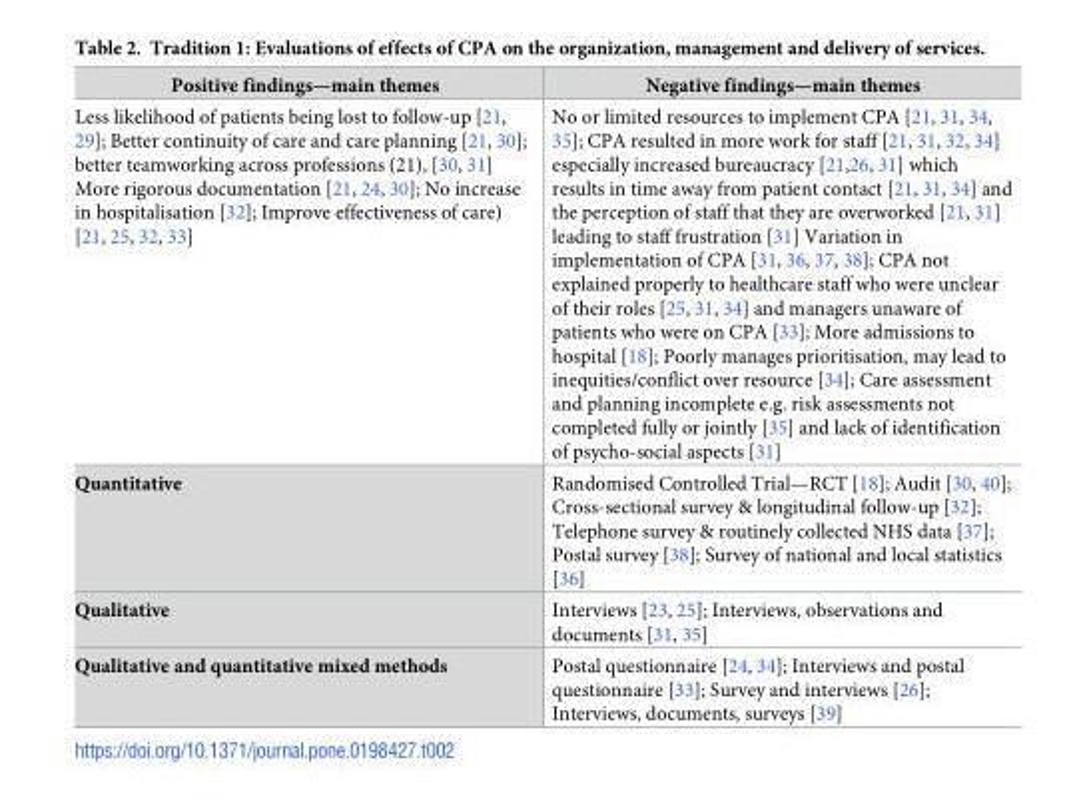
<table><thead><tr><td>Positive findings—main themes</td><td>Negative findings—main themes</td></tr></thead><tbody><tr><td>Less likelihood of patients being lost to follow-up [21, 29]; Better continuity of care and care planning [21, 30]; better teamworking across professions (21), [30, 31] More rigorous documentation [21, 24, 30]; No increase in hospitalisation [32]; Improve effectiveness of care) [21, 25, 32, 33]</td><td>No or limited resources to implement CPA [21, 31, 34, 35]; CPA resulted in more work for staff [21, 31, 32, 34] especially increased bureaucracy [21,26, 31] which results in time away from patient contact [21, 31, 34] and the perception of staff that they are overworked [21, 31] leading to staff frustration [31] Variation in implementation of CPA [31, 36, 37, 38]; CPA not explained properly to healthcare staff who were unclear of their roles [25, 31, 34] and managers unaware of patients who were on CPA [33]; More admissions to hospital [18]; Poorly manages prioritisation, may lead to inequities/conflict over resource [34]; Care assessment and planning incomplete e.g. risk assessments not completed fully or jointly [35] and lack of identification of psycho-social aspects [31]</td></tr><tr><td>Quantitative</td><td>Randomised Controlled Trial—RCT [18]; Audit [30, 40]; Cross-sectional survey &amp; longitudinal follow-up [32]; Telephone survey &amp; routinely collected NHS data [37]; Postal survey [38]; Survey of national and local statistics [36]</td></tr><tr><td>Qualitative</td><td>Interviews [23, 25]; Interviews, observations and documents [31, 35]</td></tr><tr><td>Qualitative and quantitative mixed methods</td><td>Postal questionnaire [24, 34]; Interviews and postal questionnaire [33]; Survey and interviews [26]; Interviews, documents, surveys [39]</td></tr></tbody></table>